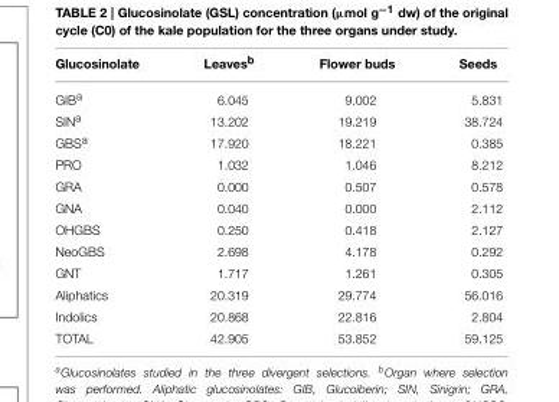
<table><thead><tr><td>Glucosinolate</td><td>Leaves<sup>b</sup></td><td>Flower buds</td><td>Seeds</td></tr></thead><tbody><tr><td>GIB<sup>a</sup></td><td>6.045</td><td>9.002</td><td>5.831</td></tr><tr><td>SIN<sup>a</sup></td><td>13.202</td><td>19.219</td><td>38.724</td></tr><tr><td>GBS<sup>a</sup></td><td>17.920</td><td>18.221</td><td>0.385</td></tr><tr><td>PRO</td><td>1.032</td><td>1.046</td><td>8.212</td></tr><tr><td>GRA</td><td>0.000</td><td>0.507</td><td>0.578</td></tr><tr><td>GNA</td><td>0.040</td><td>0.000</td><td>2.112</td></tr><tr><td>OHGBS</td><td>0.250</td><td>0.418</td><td>2.127</td></tr><tr><td>NeoGBS</td><td>2.698</td><td>4.178</td><td>0.292</td></tr><tr><td>GNT</td><td>1.717</td><td>1.261</td><td>0.305</td></tr><tr><td>Aliphatics</td><td>20.319</td><td>29.774</td><td>56.016</td></tr><tr><td>Indolics</td><td>20.868</td><td>22.816</td><td>2.804</td></tr><tr><td>TOTAL</td><td>42.905</td><td>53.852</td><td>59.125</td></tr></tbody></table>